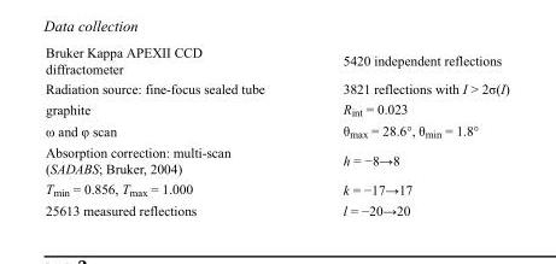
<table><tbody><tr><td>Bruker Kappa APEXII CCD diffractometer</td><td>5420 independent reflections</td></tr><tr><td>Radiation source: fine-focus sealed tube</td><td>3821 reflections with I &gt; 2σ(I)</td></tr><tr><td>graphite</td><td>R<sub>int</sub> = 0.023</td></tr><tr><td>ω and φ scan</td><td>θ<sub>max</sub> = 28.6°, θ<sub>min</sub> = 1.8°</td></tr><tr><td>Absorption correction: multi-scan (SADABS; Bruker, 2004)</td><td>h = −8→8</td></tr><tr><td>T<sub>min</sub> = 0.856, T<sub>max</sub> = 1.000</td><td>k = −17→17</td></tr><tr><td>25613 measured reflections</td><td>l = −20→20</td></tr></tbody></table>